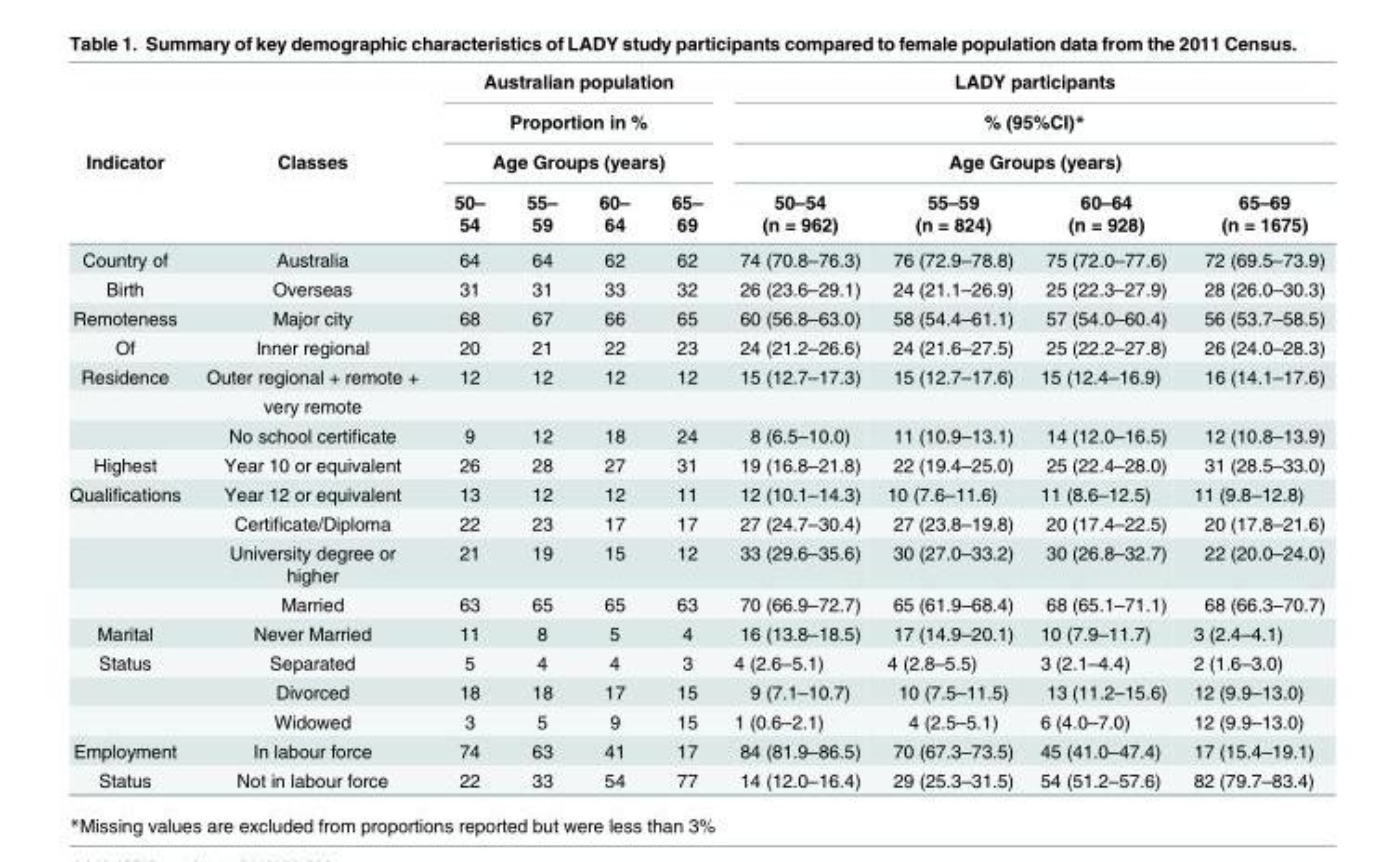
<table><thead><tr><td rowspan="4">Indicator</td><td rowspan="4">Classes</td><td rowspan="3" colspan="4">Australian population Proportion in % Age Groups (years)</td><td rowspan="3" colspan="4">LADY participants % (95%CI)* Age Groups (years)</td></tr><tr></tr><tr></tr><tr><td>50– 54</td><td>55– 59</td><td>60– 64</td><td>65– 69</td><td>50–54 (n = 962)</td><td>55–59 (n = 824)</td><td>60–64 (n = 928)</td><td>65–69 (n = 1675)</td></tr></thead><tbody><tr><td>Country of</td><td>Australia</td><td>64</td><td>64</td><td>62</td><td>62</td><td>74 (70.8–76.3)</td><td>76 (72.9–78.8)</td><td>75 (72.0–77.6)</td><td>72 (69.5–73.9)</td></tr><tr><td>Birth</td><td>Overseas</td><td>31</td><td>31</td><td>33</td><td>32</td><td>26 (23.6–29.1)</td><td>24 (21.1–26.9)</td><td>25 (22.3–27.9)</td><td>28 (26.0–30.3)</td></tr><tr><td>Remoteness</td><td>Major city</td><td>68</td><td>67</td><td>66</td><td>65</td><td>60 (56.8–63.0)</td><td>58 (54.4–61.1)</td><td>57 (54.0–60.4)</td><td>56 (53.7–58.5)</td></tr><tr><td>Of</td><td>Inner regional</td><td>20</td><td>21</td><td>22</td><td>23</td><td>24 (21.2–26.6)</td><td>24 (21.6–27.5)</td><td>25 (22.2–27.8)</td><td>26 (24.0–28.3)</td></tr><tr><td rowspan="3">Residence</td><td>Outer regional + remote +</td><td>12</td><td>12</td><td>12</td><td>12</td><td>15 (12.7–17.3)</td><td>15 (12.7–17.6)</td><td>15 (12.4–16.9)</td><td>16 (14.1–17.6)</td></tr><tr><td>very remote</td><td></td><td></td><td></td><td></td><td></td><td></td><td></td><td></td></tr><tr><td>No school certificate</td><td>9</td><td>12</td><td>18</td><td>24</td><td>8 (6.5–10.0)</td><td>11 (10.9–13.1)</td><td>14 (12.0–16.5)</td><td>12 (10.8–13.9)</td></tr><tr><td>Highest</td><td>Year 10 or equivalent</td><td>26</td><td>28</td><td>27</td><td>31</td><td>19 (16.8–21.8)</td><td>22 (19.4–25.0)</td><td>25 (22.4–28.0)</td><td>31 (28.5–33.0)</td></tr><tr><td rowspan="4">Qualifications</td><td>Year 12 or equivalent</td><td>13</td><td>12</td><td>12</td><td>11</td><td>12 (10.1–14.3)</td><td>10 (7.6–11.6)</td><td>11 (8.6–12.5)</td><td>11 (9.8–12.8)</td></tr><tr><td>Certificate/Diploma</td><td>22</td><td>23</td><td>17</td><td>17</td><td>27 (24.7–30.4)</td><td>27 (23.8–19.8)</td><td>20 (17.4–22.5)</td><td>20 (17.8–21.6)</td></tr><tr><td>University degree or higher</td><td>21</td><td>19</td><td>15</td><td>12</td><td>33 (29.6–35.6)</td><td>30 (27.0–33.2)</td><td>30 (26.8–32.7)</td><td>22 (20.0–24.0)</td></tr><tr><td>Married</td><td>63</td><td>65</td><td>65</td><td>63</td><td>70 (66.9–72.7)</td><td>65 (61.9–68.4)</td><td>68 (65.1–71.1)</td><td>68 (66.3–70.7)</td></tr><tr><td>Marital</td><td>Never Married</td><td>11</td><td>8</td><td>5</td><td>4</td><td>16 (13.8–18.5)</td><td>17 (14.9–20.1)</td><td>10 (7.9–11.7)</td><td>3 (2.4–4.1)</td></tr><tr><td rowspan="3">Status</td><td>Separated</td><td>5</td><td>4</td><td>4</td><td>3</td><td>4 (2.6–5.1)</td><td>4 (2.8–5.5)</td><td>3 (2.1–4.4)</td><td>2 (1.6–3.0)</td></tr><tr><td>Divorced</td><td>18</td><td>18</td><td>17</td><td>15</td><td>9 (7.1–10.7)</td><td>10 (7.5–11.5)</td><td>13 (11.2–15.6)</td><td>12 (9.9–13.0)</td></tr><tr><td>Widowed</td><td>3</td><td>5</td><td>9</td><td>15</td><td>1 (0.6–2.1)</td><td>4 (2.5–5.1)</td><td>6 (4.0–7.0)</td><td>12 (9.9–13.0)</td></tr><tr><td>Employment</td><td>In labour force</td><td>74</td><td>63</td><td>41</td><td>17</td><td>84 (81.9–86.5)</td><td>70 (67.3–73.5)</td><td>45 (41.0–47.4)</td><td>17 (15.4–19.1)</td></tr><tr><td>Status</td><td>Not in labour force</td><td>22</td><td>33</td><td>54</td><td>77</td><td>14 (12.0–16.4)</td><td>29 (25.3–31.5)</td><td>54 (51.2–57.6)</td><td>82 (79.7–83.4)</td></tr></tbody></table>